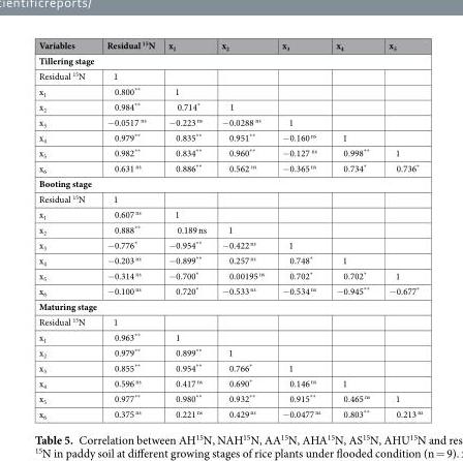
<table><thead><tr><td>Variables</td><td>Residual <sup>15</sup>N</td><td>x<sub>1</sub></td><td>x<sub>2</sub></td><td>x<sub>3</sub></td><td>x<sub>4</sub></td><td>x<sub>5</sub></td></tr></thead><tbody><tr><td colspan="7">Tillering stage</td></tr><tr><td>Residual <sup>15</sup>N</td><td>1</td><td></td><td></td><td></td><td></td><td></td></tr><tr><td>x<sub>1</sub></td><td>0.800**</td><td>1</td><td></td><td></td><td></td><td></td></tr><tr><td>x<sub>2</sub></td><td>0.984**</td><td>0.714*</td><td>1</td><td></td><td></td><td></td></tr><tr><td>x<sub>3</sub></td><td>−0.0517 <sup>ns</sup></td><td>−0.223 <sup>ns</sup></td><td>−0.0288 <sup>ns</sup></td><td>1</td><td></td><td></td></tr><tr><td>x<sub>4</sub></td><td>0.979**</td><td>0.835**</td><td>0.951**</td><td>−0.160 <sup>ns</sup></td><td>1</td><td></td></tr><tr><td>x<sub>5</sub></td><td>0.982**</td><td>0.834**</td><td>0.960**</td><td>−0.127 <sup>ns</sup></td><td>0.998**</td><td>1</td></tr><tr><td>x<sub>6</sub></td><td>0.631 <sup>ns</sup></td><td>0.886**</td><td>0.562 <sup>ns</sup></td><td>−0.365 <sup>ns</sup></td><td>0.734*</td><td>0.736*</td></tr><tr><td colspan="7">Booting stage</td></tr><tr><td>Residual <sup>15</sup>N</td><td>1</td><td></td><td></td><td></td><td></td><td></td></tr><tr><td>x<sub>1</sub></td><td>0.607 <sup>ns</sup></td><td>1</td><td></td><td></td><td></td><td></td></tr><tr><td>x<sub>2</sub></td><td>0.888**</td><td>0.189 ns</td><td>1</td><td></td><td></td><td></td></tr><tr><td>x<sub>3</sub></td><td>−0.776*</td><td>−0.954**</td><td>−0.422 <sup>ns</sup></td><td>1</td><td></td><td></td></tr><tr><td>x<sub>4</sub></td><td>−0.203 <sup>ns</sup></td><td>−0.899**</td><td>0.257 <sup>ns</sup></td><td>0.748*</td><td>1</td><td></td></tr><tr><td>x<sub>5</sub></td><td>−0.314 <sup>ns</sup></td><td>−0.700*</td><td>0.00195 <sup>ns</sup></td><td>0.702*</td><td>0.702*</td><td>1</td></tr><tr><td>x<sub>6</sub></td><td>−0.100 <sup>ns</sup></td><td>0.720*</td><td>−0.533 <sup>ns</sup></td><td>−0.534 <sup>ns</sup></td><td>−0.945**</td><td>−0.677*</td></tr><tr><td colspan="7">Maturing stage</td></tr><tr><td>Residual <sup>15</sup>N</td><td>1</td><td></td><td></td><td></td><td></td><td></td></tr><tr><td>x<sub>1</sub></td><td>0.963**</td><td>1</td><td></td><td></td><td></td><td></td></tr><tr><td>x<sub>2</sub></td><td>0.979**</td><td>0.899**</td><td>1</td><td></td><td></td><td></td></tr><tr><td>x<sub>3</sub></td><td>0.855**</td><td>0.954**</td><td>0.766*</td><td>1</td><td></td><td></td></tr><tr><td>x<sub>4</sub></td><td>0.596 <sup>ns</sup></td><td>0.417 <sup>ns</sup></td><td>0.690*</td><td>0.146 <sup>ns</sup></td><td>1</td><td></td></tr><tr><td>x<sub>5</sub></td><td>0.977**</td><td>0.980**</td><td>0.932**</td><td>0.915**</td><td>0.465 <sup>ns</sup></td><td>1</td></tr><tr><td>x<sub>6</sub></td><td>0.375 <sup>ns</sup></td><td>0.221 <sup>ns</sup></td><td>0.429 <sup>ns</sup></td><td>−0.0477 <sup>ns</sup></td><td>0.803**</td><td>0.213 <sup>ns</sup></td></tr></tbody></table>